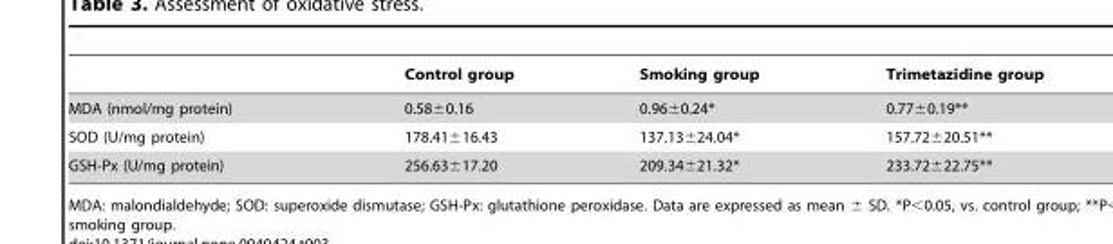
<table><thead><tr><td></td><td>Control group</td><td>Smoking group</td><td>Trimetazidine group</td></tr></thead><tbody><tr><td>MDA (nmol/mg protein)</td><td>0.58±0.16</td><td>0.96±0.24*</td><td>0.77±0.19**</td></tr><tr><td>SOD (U/mg protein)</td><td>178.41±16.43</td><td>137.13±24.04*</td><td>157.72±20.51**</td></tr><tr><td>GSH-Px (U/mg protein)</td><td>256.63±17.20</td><td>209.34±21.32*</td><td>233.72±22.75**</td></tr></tbody></table>